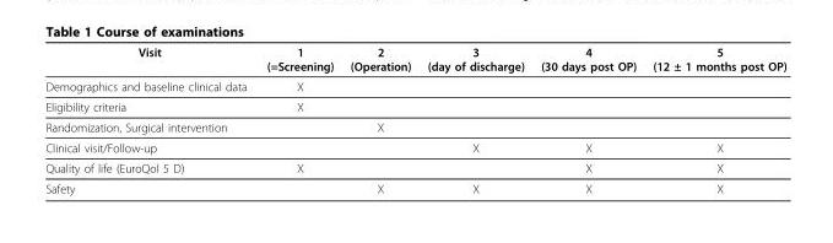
<table><thead><tr><td>Visit</td><td>1 (=Screening)</td><td>2 (Operation)</td><td>3 (day of discharge)</td><td>4 (30 days post OP)</td><td>5 (12 ± 1 months post OP)</td></tr></thead><tbody><tr><td>Demographics and baseline clinical data</td><td>X</td><td></td><td></td><td></td><td></td></tr><tr><td>Eligibility criteria</td><td>X</td><td></td><td></td><td></td><td></td></tr><tr><td>Randomization, Surgical intervention</td><td></td><td>X</td><td></td><td></td><td></td></tr><tr><td>Clinical visit/Follow-up</td><td></td><td></td><td>X</td><td>X</td><td>X</td></tr><tr><td>Quality of life (EuroQol 5 D)</td><td>X</td><td></td><td></td><td>X</td><td>X</td></tr><tr><td>Safety</td><td></td><td>X</td><td>X</td><td>X</td><td>X</td></tr></tbody></table>